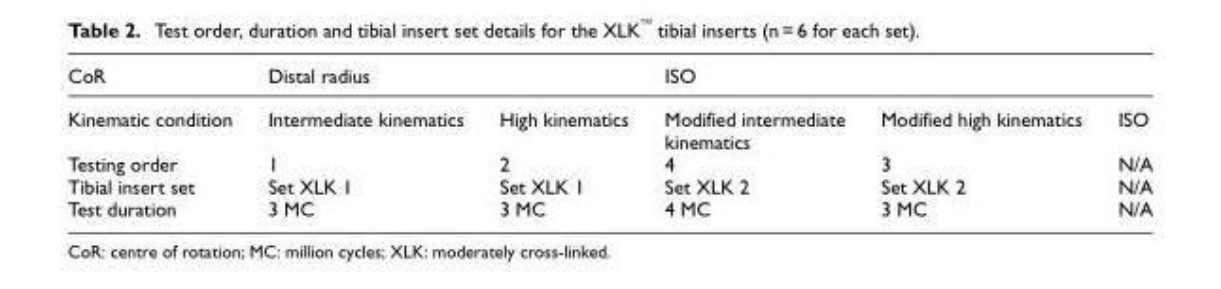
<table><thead><tr><td rowspan="2">CoR Kinematic condition</td><td colspan="2">Distal radius</td><td colspan="3">ISO</td></tr><tr><td>Intermediate kinematics</td><td>High kinematics</td><td>Modified intermediate kinematics</td><td>Modified high kinematics</td><td>ISO</td></tr></thead><tbody><tr><td>Testing order</td><td>1</td><td>2</td><td>4</td><td>3</td><td>N/A</td></tr><tr><td>Tibial insert set</td><td>Set XLK 1</td><td>Set XLK 1</td><td>Set XLK 2</td><td>Set XLK 2</td><td>N/A</td></tr><tr><td>Test duration</td><td>3 MC</td><td>3 MC</td><td>4 MC</td><td>3 MC</td><td>N/A</td></tr></tbody></table>